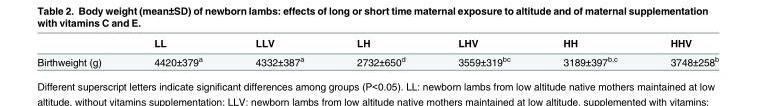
<table><thead><tr><td></td><td>LL</td><td>LLV</td><td>LH</td><td>LHV</td><td>HH</td><td>HHV</td></tr></thead><tbody><tr><td>Birthweight (g)</td><td>4420±379<sup>a</sup></td><td>4332±387<sup>a</sup></td><td>2732±650<sup>d</sup></td><td>3559±319<sup>bc</sup></td><td>3189±397<sup>b,c</sup></td><td>3748±258<sup>b</sup></td></tr></tbody></table>